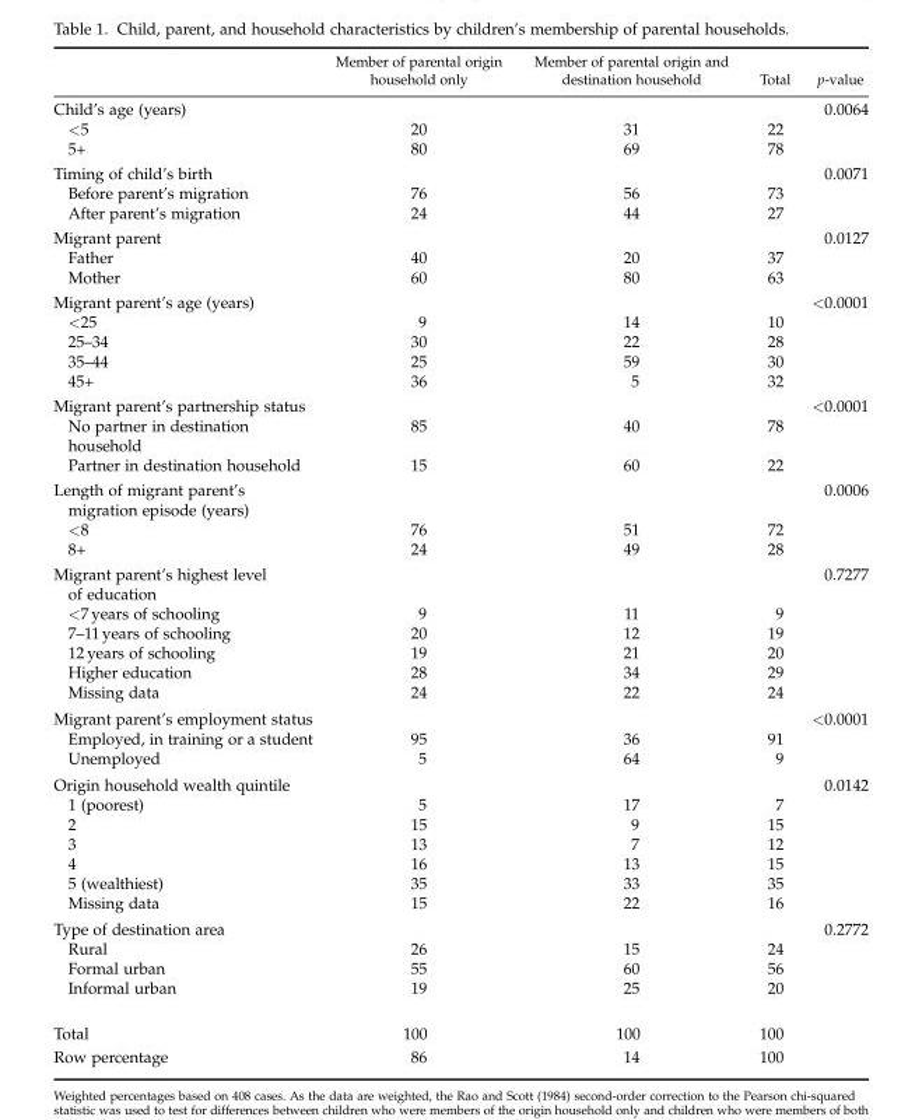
<table><thead><tr><td></td><td>Member of parental origin household only</td><td>Member of parental origin and destination household</td><td>Total</td><td>p-value</td></tr></thead><tbody><tr><td>Child’s age (years)</td><td></td><td></td><td></td><td>0.0064</td></tr><tr><td>&lt;5</td><td>20</td><td>31</td><td>22</td><td></td></tr><tr><td>5+</td><td>80</td><td>69</td><td>78</td><td></td></tr><tr><td>Timing of child’s birth</td><td></td><td></td><td></td><td>0.0071</td></tr><tr><td>Before parent’s migration</td><td>76</td><td>56</td><td>73</td><td></td></tr><tr><td>After parent’s migration</td><td>24</td><td>44</td><td>27</td><td></td></tr><tr><td>Migrant parent</td><td></td><td></td><td></td><td>0.0127</td></tr><tr><td>Father</td><td>40</td><td>20</td><td>37</td><td></td></tr><tr><td>Mother</td><td>60</td><td>80</td><td>63</td><td></td></tr><tr><td>Migrant parent’s age (years)</td><td></td><td></td><td></td><td>&lt;0.0001</td></tr><tr><td>&lt;25</td><td>9</td><td>14</td><td>10</td><td></td></tr><tr><td>25–34</td><td>30</td><td>22</td><td>28</td><td></td></tr><tr><td>35–44</td><td>25</td><td>59</td><td>30</td><td></td></tr><tr><td>45+</td><td>36</td><td>5</td><td>32</td><td></td></tr><tr><td>Migrant parent’s partnership status</td><td></td><td></td><td></td><td>&lt;0.0001</td></tr><tr><td>No partner in destination household</td><td>85</td><td>40</td><td>78</td><td></td></tr><tr><td>Partner in destination household</td><td>15</td><td>60</td><td>22</td><td></td></tr><tr><td>Length of migrant parent’s migration episode (years)</td><td></td><td></td><td></td><td>0.0006</td></tr><tr><td>&lt;8</td><td>76</td><td>51</td><td>72</td><td></td></tr><tr><td>8+</td><td>24</td><td>49</td><td>28</td><td></td></tr><tr><td>Migrant parent’s highest level of education</td><td></td><td></td><td></td><td>0.7277</td></tr><tr><td>&lt;7 years of schooling</td><td>9</td><td>11</td><td>9</td><td></td></tr><tr><td>7–11 years of schooling</td><td>20</td><td>12</td><td>19</td><td></td></tr><tr><td>12 years of schooling</td><td>19</td><td>21</td><td>20</td><td></td></tr><tr><td>Higher education</td><td>28</td><td>34</td><td>29</td><td></td></tr><tr><td>Missing data</td><td>24</td><td>22</td><td>24</td><td></td></tr><tr><td>Migrant parent’s employment status</td><td></td><td></td><td></td><td>&lt;0.0001</td></tr><tr><td>Employed, in training or a student</td><td>95</td><td>36</td><td>91</td><td></td></tr><tr><td>Unemployed</td><td>5</td><td>64</td><td>9</td><td></td></tr><tr><td>Origin household wealth quintile</td><td></td><td></td><td></td><td>0.0142</td></tr><tr><td>1 (poorest)</td><td>5</td><td>17</td><td>7</td><td></td></tr><tr><td>2</td><td>15</td><td>9</td><td>15</td><td></td></tr><tr><td>3</td><td>13</td><td>7</td><td>12</td><td></td></tr><tr><td>4</td><td>16</td><td>13</td><td>15</td><td></td></tr><tr><td>5 (wealthiest)</td><td>35</td><td>33</td><td>35</td><td></td></tr><tr><td>Missing data</td><td>15</td><td>22</td><td>16</td><td></td></tr><tr><td>Type of destination area</td><td></td><td></td><td></td><td>0.2772</td></tr><tr><td>Rural</td><td>26</td><td>15</td><td>24</td><td></td></tr><tr><td>Formal urban</td><td>55</td><td>60</td><td>56</td><td></td></tr><tr><td>Informal urban</td><td>19</td><td>25</td><td>20</td><td></td></tr><tr><td>Total</td><td>100</td><td>100</td><td>100</td><td></td></tr><tr><td>Row percentage</td><td>86</td><td>14</td><td>100</td><td></td></tr></tbody></table>